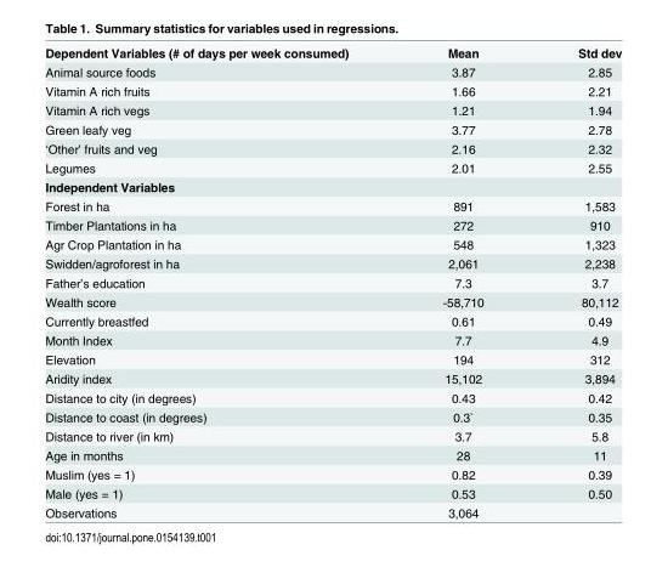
<table><tbody><tr><td>Dependent Variables (# of days per week consumed)</td><td>Mean</td><td>Std dev</td></tr><tr><td>Animal source foods</td><td>3.87</td><td>2.85</td></tr><tr><td>Vitamin A rich fruits</td><td>1.66</td><td>2.21</td></tr><tr><td>Vitamin A rich vegs</td><td>1.21</td><td>1.94</td></tr><tr><td>Green leafy veg</td><td>3.77</td><td>2.78</td></tr><tr><td>‘Other’ fruits and veg</td><td>2.16</td><td>2.32</td></tr><tr><td>Legumes</td><td>2.01</td><td>2.55</td></tr><tr><td colspan="3">Independent Variables</td></tr><tr><td>Forest in ha</td><td>891</td><td>1,583</td></tr><tr><td>Timber Plantations in ha</td><td>272</td><td>910</td></tr><tr><td>Agr Crop Plantation in ha</td><td>548</td><td>1,323</td></tr><tr><td>Swidden/agroforest in ha</td><td>2,061</td><td>2,238</td></tr><tr><td>Father’s education</td><td>7.3</td><td>3.7</td></tr><tr><td>Wealth score</td><td>-58,710</td><td>80,112</td></tr><tr><td>Currently breastfed</td><td>0.61</td><td>0.49</td></tr><tr><td>Month Index</td><td>7.7</td><td>4.9</td></tr><tr><td>Elevation</td><td>194</td><td>312</td></tr><tr><td>Aridity index</td><td>15,102</td><td>3,894</td></tr><tr><td>Distance to city (in degrees)</td><td>0.43</td><td>0.42</td></tr><tr><td>Distance to coast (in degrees)</td><td>0.3`</td><td>0.35</td></tr><tr><td>Distance to river (in km)</td><td>3.7</td><td>5.8</td></tr><tr><td>Age in months</td><td>28</td><td>11</td></tr><tr><td>Muslim (yes = 1)</td><td>0.82</td><td>0.39</td></tr><tr><td>Male (yes = 1)</td><td>0.53</td><td>0.50</td></tr><tr><td>Observations</td><td>3,064</td><td></td></tr></tbody></table>